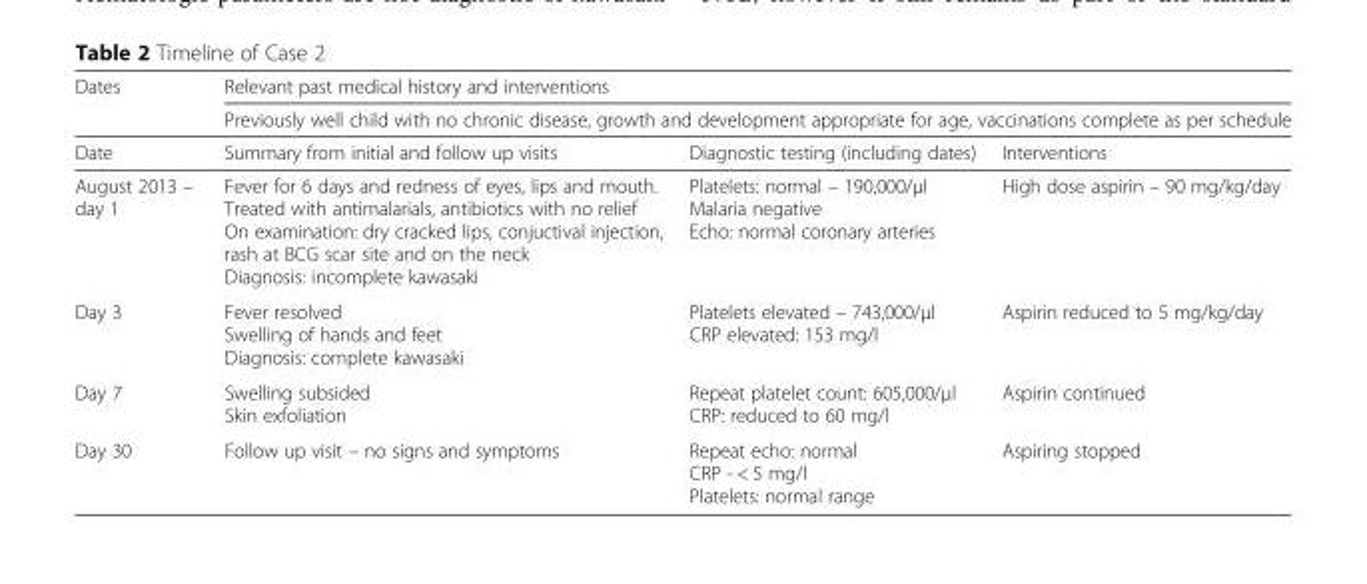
<table><thead><tr><td rowspan="3">Dates Date</td><td rowspan="2" colspan="3">Relevant past medical history and interventions Previously well child with no chronic disease, growth and development appropriate for age, vaccinations complete as per schedule</td></tr><tr></tr><tr><td>Summary from initial and follow up visits</td><td>Diagnostic testing (including dates)</td><td>Interventions</td></tr></thead><tbody><tr><td>August 2013 – day 1</td><td>Fever for 6 days and redness of eyes, lips and mouth. Treated with antimalarials, antibiotics with no relief On examination: dry cracked lips, conjuctival injection, rash at BCG scar site and on the neck Diagnosis: incomplete kawasaki</td><td>Platelets: normal – 190,000/μl Malaria negative Echo: normal coronary arteries</td><td>High dose aspirin – 90 mg/kg/day</td></tr><tr><td>Day 3</td><td>Fever resolved Swelling of hands and feet Diagnosis: complete kawasaki</td><td>Platelets elevated – 743,000/μl CRP elevated: 153 mg/l</td><td>Aspirin reduced to 5 mg/kg/day</td></tr><tr><td>Day 7</td><td>Swelling subsided Skin exfoliation</td><td>Repeat platelet count: 605,000/μl CRP: reduced to 60 mg/l</td><td>Aspirin continued</td></tr><tr><td>Day 30</td><td>Follow up visit – no signs and symptoms</td><td>Repeat echo: normal CRP - &lt; 5 mg/l Platelets: normal range</td><td>Aspiring stopped</td></tr></tbody></table>